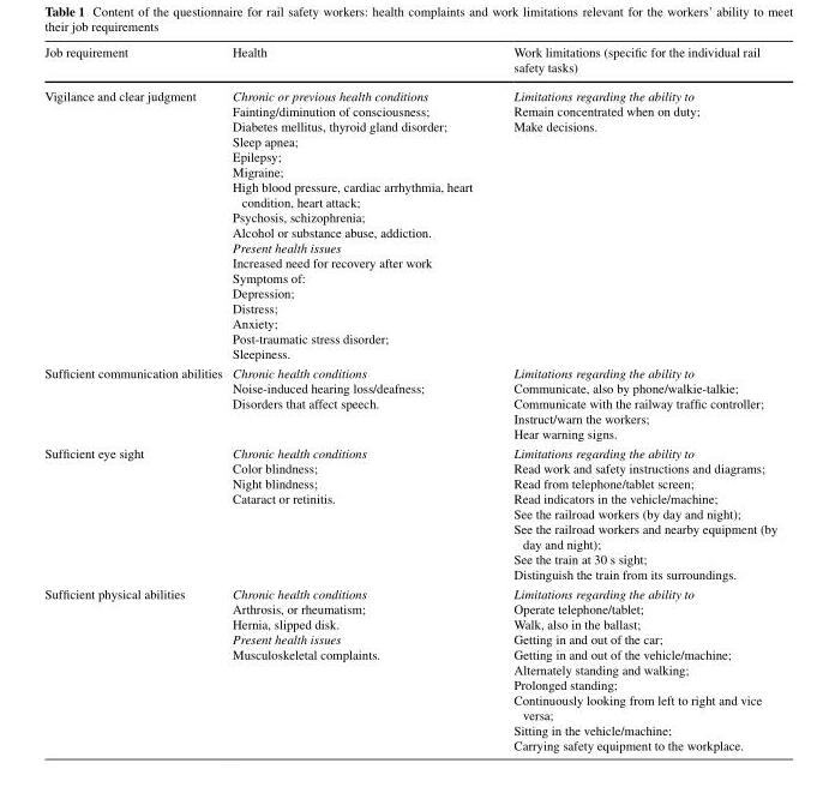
<table><thead><tr><td>Job requirement</td><td>Health</td><td>Work limitations (specific for the individual rail safety tasks)</td></tr></thead><tbody><tr><td>Vigilance and clear judgment</td><td>Chronic or previous health conditions Fainting/diminution of consciousness; Diabetes mellitus, thyroid gland disorder; Sleep apnea; Epilepsy; Migraine; High blood pressure, cardiac arrhythmia, heart condition, heart attack; Psychosis, schizophrenia; Alcohol or substance abuse, addiction. Present health issues Increased need for recovery after work Symptoms of: Depression; Distress; Anxiety; Post-traumatic stress disorder; Sleepiness.</td><td>Limitations regarding the ability to Remain concentrated when on duty; Make decisions.</td></tr><tr><td>Sufficient communication abilities</td><td>Chronic health conditions Noise-induced hearing loss/deafness; Disorders that affect speech.</td><td>Limitations regarding the ability to Communicate, also by phone/walkie-talkie; Communicate with the railway traffic controller; Instruct/warn the workers; Hear warning signs.</td></tr><tr><td>Sufficient eye sight</td><td>Chronic health conditions Color blindness; Night blindness; Cataract or retinitis.</td><td>Limitations regarding the ability to Read work and safety instructions and diagrams; Read from telephone/tablet screen; Read indicators in the vehicle/machine; See the railroad workers (by day and night); See the railroad workers and nearby equipment (by day and night); See the train at 30 s sight; Distinguish the train from its surroundings.</td></tr><tr><td>Sufficient physical abilities</td><td>Chronic health conditions Arthrosis, or rheumatism; Hernia, slipped disk. Present health issues Musculoskeletal complaints.</td><td>Limitations regarding the ability to Operate telephone/tablet; Walk, also in the ballast; Getting in and out of the car; Getting in and out of the vehicle/machine; Alternately standing and walking; Prolonged standing; Continuously looking from left to right and vice versa; Sitting in the vehicle/machine; Carrying safety equipment to the workplace.</td></tr></tbody></table>